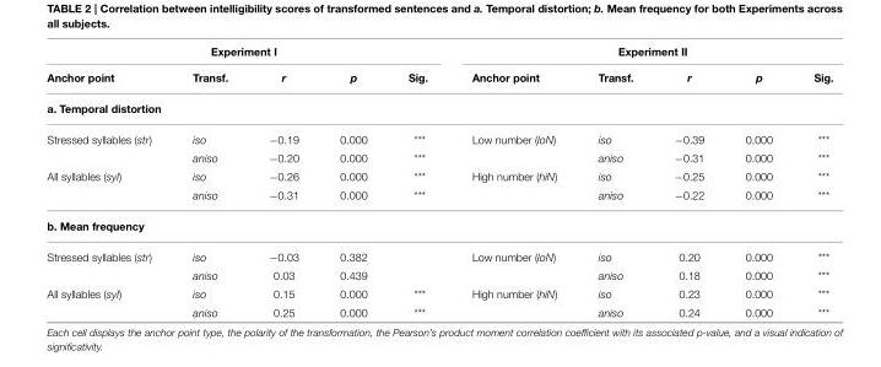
<table><thead><tr><td colspan="5">Experiment I</td><td colspan="5">Experiment II</td></tr><tr><td>Anchor point</td><td>Transf.</td><td>r</td><td>p</td><td>Sig.</td><td>Anchor point</td><td>Transf.</td><td>r</td><td>p</td><td>Sig.</td></tr></thead><tbody><tr><td colspan="10">a. Temporal distortion</td></tr><tr><td rowspan="2">Stressed syllables (str)</td><td>iso</td><td>−0.19</td><td>0.000</td><td>***</td><td>Low number (loN)</td><td>iso</td><td>−0.39</td><td>0.000</td><td>***</td></tr><tr><td>aniso</td><td>−0.20</td><td>0.000</td><td>***</td><td></td><td>aniso</td><td>−0.31</td><td>0.000</td><td>***</td></tr><tr><td rowspan="2">All syllables (syl)</td><td>iso</td><td>−0.26</td><td>0.000</td><td>***</td><td>High number (hiN)</td><td>iso</td><td>−0.25</td><td>0.000</td><td>***</td></tr><tr><td>aniso</td><td>−0.31</td><td>0.000</td><td>***</td><td></td><td>aniso</td><td>−0.22</td><td>0.000</td><td>***</td></tr><tr><td colspan="10">b. Mean frequency</td></tr><tr><td rowspan="2">Stressed syllables (str)</td><td>iso</td><td>−0.03</td><td>0.382</td><td></td><td>Low number (loN)</td><td>iso</td><td>0.20</td><td>0.000</td><td>***</td></tr><tr><td>aniso</td><td>0.03</td><td>0.439</td><td></td><td></td><td>aniso</td><td>0.18</td><td>0.000</td><td>***</td></tr><tr><td rowspan="2">All syllables (syl)</td><td>iso</td><td>0.15</td><td>0.000</td><td>***</td><td>High number (hiN)</td><td>iso</td><td>0.23</td><td>0.000</td><td>***</td></tr><tr><td>aniso</td><td>0.25</td><td>0.000</td><td>***</td><td></td><td>aniso</td><td>0.24</td><td>0.000</td><td>***</td></tr></tbody></table>